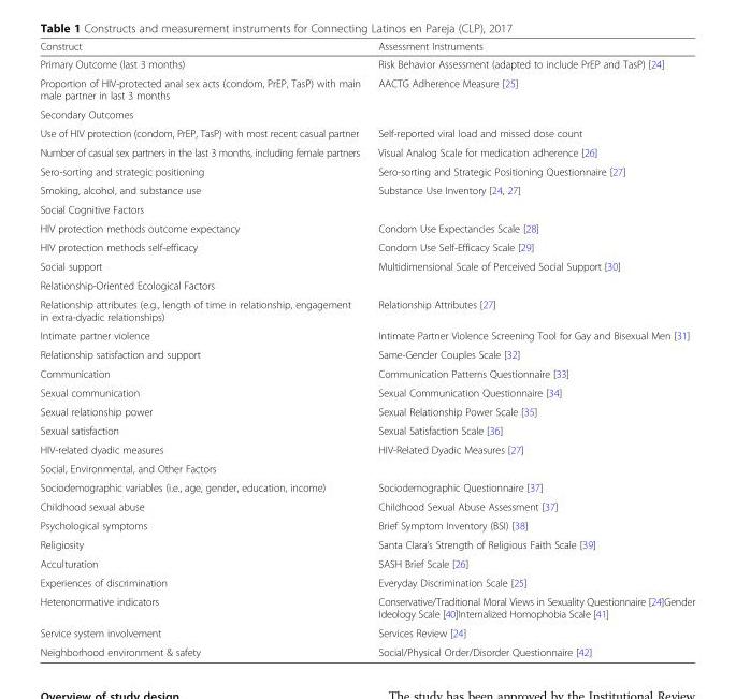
<table><thead><tr><td>Construct</td><td>Assessment Instruments</td></tr></thead><tbody><tr><td>Primary Outcome (last 3 months)</td><td>Risk Behavior Assessment (adapted to include PrEP and TasP) [24]</td></tr><tr><td>Proportion of HIV-protected anal sex acts (condom, PrEP, TasP) with main male partner in last 3 months</td><td>AACTG Adherence Measure [25]</td></tr><tr><td colspan="2">Secondary Outcomes</td></tr><tr><td>Use of HIV protection (condom, PrEP, TasP) with most recent casual partner</td><td>Self-reported viral load and missed dose count</td></tr><tr><td>Number of casual sex partners in the last 3 months, including female partners</td><td>Visual Analog Scale for medication adherence [26]</td></tr><tr><td>Sero-sorting and strategic positioning</td><td>Sero-sorting and Strategic Positioning Questionnaire [27]</td></tr><tr><td>Smoking, alcohol, and substance use</td><td>Substance Use Inventory [24, 27]</td></tr><tr><td colspan="2">Social Cognitive Factors</td></tr><tr><td>HIV protection methods outcome expectancy</td><td>Condom Use Expectancies Scale [28]</td></tr><tr><td>HIV protection methods self-efficacy</td><td>Condom Use Self-Efficacy Scale [29]</td></tr><tr><td>Social support</td><td>Multidimensional Scale of Perceived Social Support [30]</td></tr><tr><td colspan="2">Relationship-Oriented Ecological Factors</td></tr><tr><td>Relationship attributes (e.g., length of time in relationship, engagement in extra-dyadic relationships)</td><td>Relationship Attributes [27]</td></tr><tr><td>Intimate partner violence</td><td>Intimate Partner Violence Screening Tool for Gay and Bisexual Men [31]</td></tr><tr><td>Relationship satisfaction and support</td><td>Same-Gender Couples Scale [32]</td></tr><tr><td>Communication</td><td>Communication Patterns Questionnaire [33]</td></tr><tr><td>Sexual communication</td><td>Sexual Communication Questionnaire [34]</td></tr><tr><td>Sexual relationship power</td><td>Sexual Relationship Power Scale [35]</td></tr><tr><td>Sexual satisfaction</td><td>Sexual Satisfaction Scale [36]</td></tr><tr><td>HIV-related dyadic measures</td><td>HIV-Related Dyadic Measures [27]</td></tr><tr><td colspan="2">Social, Environmental, and Other Factors</td></tr><tr><td>Sociodemographic variables (i.e., age, gender, education, income)</td><td>Sociodemographic Questionnaire [37]</td></tr><tr><td>Childhood sexual abuse</td><td>Childhood Sexual Abuse Assessment [37]</td></tr><tr><td>Psychological symptoms</td><td>Brief Symptom Inventory (BSI) [38]</td></tr><tr><td>Religiosity</td><td>Santa Clara’s Strength of Religious Faith Scale [39]</td></tr><tr><td>Acculturation</td><td>SASH Brief Scale [26]</td></tr><tr><td>Experiences of discrimination</td><td>Everyday Discrimination Scale [25]</td></tr><tr><td>Heteronormative indicators</td><td>Conservative/Traditional Moral Views in Sexuality Questionnaire [24]Gender Ideology Scale [40]Internalized Homophobia Scale [41]</td></tr><tr><td>Service system involvement</td><td>Services Review [24]</td></tr><tr><td>Neighborhood environment &amp; safety</td><td>Social/Physical Order/Disorder Questionnaire [42]</td></tr></tbody></table>